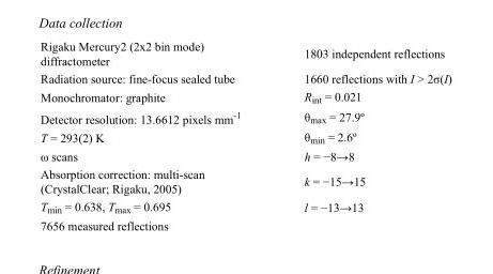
<table><tbody><tr><td>Rigaku Mercury2 (2x2 bin mode) diffractometer</td><td>1803 independent reflections</td></tr><tr><td>Radiation source: fine-focus sealed tube</td><td>1660 reflections with I &gt; 2σ(I)</td></tr><tr><td>Monochromator: graphite</td><td>R<sub>int</sub> = 0.021</td></tr><tr><td>Detector resolution: 13.6612 pixels mm<sup>-1</sup></td><td>θ<sub>max</sub> = 27.9º</td></tr><tr><td>T = 293(2) K</td><td>θ<sub>min</sub> = 2.6º</td></tr><tr><td>ω scans</td><td>h = −8→8</td></tr><tr><td>Absorption correction: multi-scan (CrystalClear; Rigaku, 2005)</td><td>k = −15→15</td></tr><tr><td>T<sub>min</sub> = 0.638, T<sub>max</sub> = 0.695</td><td>l = −13→13</td></tr><tr><td>7656 measured reflections</td><td></td></tr></tbody></table>